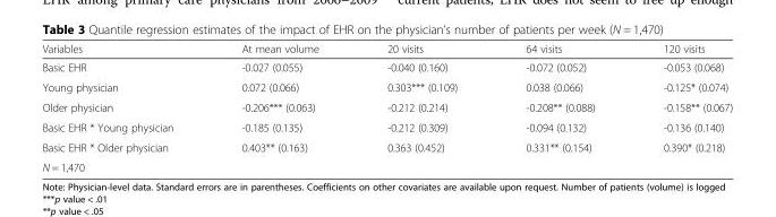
<table><thead><tr><td>Variables</td><td>At mean volume</td><td>20 visits</td><td>64 visits</td><td>120 visits</td></tr></thead><tbody><tr><td>Basic EHR</td><td>-0.027 (0.055)</td><td>-0.040 (0.160)</td><td>-0.072 (0.052)</td><td>-0.053 (0.068)</td></tr><tr><td>Young physician</td><td>0.072 (0.066)</td><td>0.303*** (0.109)</td><td>0.038 (0.066)</td><td>-0.125* (0.074)</td></tr><tr><td>Older physician</td><td>-0.206*** (0.063)</td><td>-0.212 (0.214)</td><td>-0.208** (0.088)</td><td>-0.158** (0.067)</td></tr><tr><td>Basic EHR * Young physician</td><td>-0.185 (0.135)</td><td>-0.212 (0.309)</td><td>-0.094 (0.132)</td><td>-0.136 (0.140)</td></tr><tr><td>Basic EHR * Older physician</td><td>0.403** (0.163)</td><td>0.363 (0.452)</td><td>0.331** (0.154)</td><td>0.390* (0.218)</td></tr><tr><td>N = 1,470</td><td></td><td></td><td></td><td></td></tr></tbody></table>